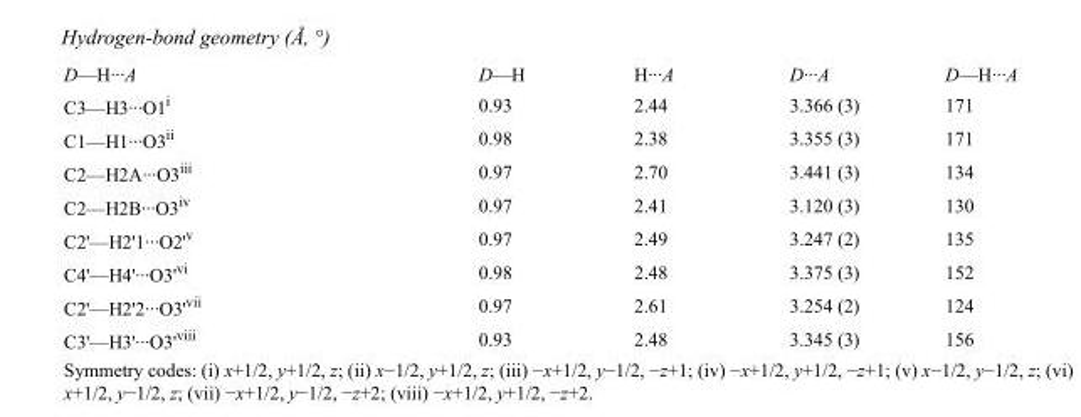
<table><tbody><tr><td>D—H···A</td><td>D—H</td><td>H···A</td><td>D···A</td><td>D—H···A</td></tr><tr><td>C3—H3···O1<sup>i</sup></td><td>0.93</td><td>2.44</td><td>3.366 (3)</td><td>171</td></tr><tr><td>C1—H1···O3<sup>ii</sup></td><td>0.98</td><td>2.38</td><td>3.355 (3)</td><td>171</td></tr><tr><td>C2—H2A···O3<sup>iii</sup></td><td>0.97</td><td>2.70</td><td>3.441 (3)</td><td>134</td></tr><tr><td>C2—H2B···O3<sup>iv</sup></td><td>0.97</td><td>2.41</td><td>3.120 (3)</td><td>130</td></tr><tr><td>C2&#x27;—H2&#x27;1···O2&#x27;<sup>v</sup></td><td>0.97</td><td>2.49</td><td>3.247 (2)</td><td>135</td></tr><tr><td>C4&#x27;—H4&#x27;···O3&#x27;<sup>vi</sup></td><td>0.98</td><td>2.48</td><td>3.375 (3)</td><td>152</td></tr><tr><td>C2&#x27;—H2&#x27;2···O3&#x27;<sup>vii</sup></td><td>0.97</td><td>2.61</td><td>3.254 (2)</td><td>124</td></tr><tr><td>C3&#x27;—H3&#x27;···O3&#x27;<sup>viii</sup></td><td>0.93</td><td>2.48</td><td>3.345 (3)</td><td>156</td></tr></tbody></table>